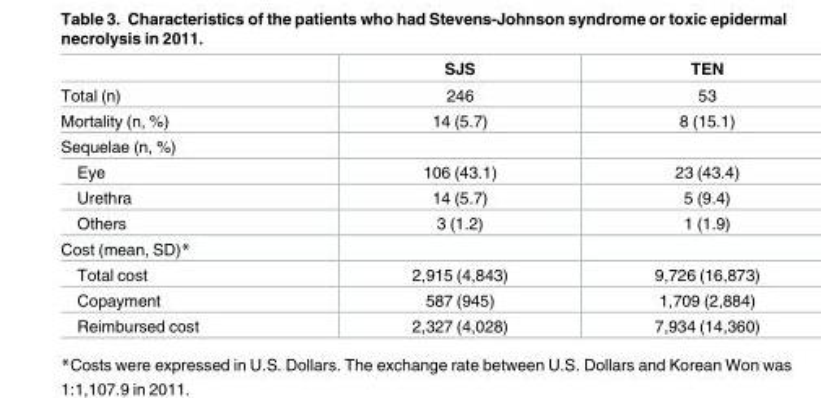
<table><thead><tr><td></td><td>SJS</td><td>TEN</td></tr></thead><tbody><tr><td>Total (n)</td><td>246</td><td>53</td></tr><tr><td>Mortality (n, %)</td><td>14 (5.7)</td><td>8 (15.1)</td></tr><tr><td colspan="3">Sequelae (n, %)</td></tr><tr><td>Eye</td><td>106 (43.1)</td><td>23 (43.4)</td></tr><tr><td>Urethra</td><td>14 (5.7)</td><td>5 (9.4)</td></tr><tr><td>Others</td><td>3 (1.2)</td><td>1 (1.9)</td></tr><tr><td colspan="3">Cost (mean, SD)*</td></tr><tr><td>Total cost</td><td>2,915 (4,843)</td><td>9,726 (16,873)</td></tr><tr><td>Copayment</td><td>587 (945)</td><td>1,709 (2,884)</td></tr><tr><td>Reimbursed cost</td><td>2,327 (4,028)</td><td>7,934 (14,360)</td></tr></tbody></table>